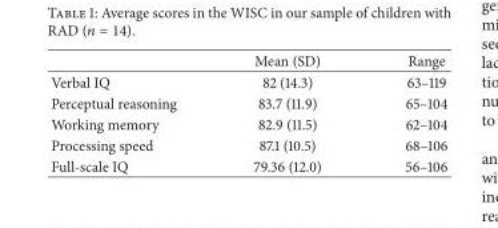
<table><thead><tr><td></td><td>Mean (SD)</td><td>Range</td></tr></thead><tbody><tr><td>Verbal IQ</td><td>82 (14.3)</td><td>63–119</td></tr><tr><td>Perceptual reasoning</td><td>83.7 (11.9)</td><td>65–104</td></tr><tr><td>Working memory</td><td>82.9 (11.5)</td><td>62–104</td></tr><tr><td>Processing speed</td><td>87.1 (10.5)</td><td>68–106</td></tr><tr><td>Full-scale IQ</td><td>79.36 (12.0)</td><td>56–106</td></tr></tbody></table>